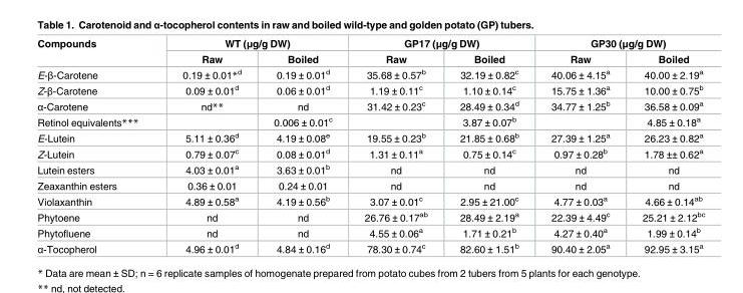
<table><thead><tr><td rowspan="2">Compounds</td><td colspan="2">WT (μg/g DW)</td><td colspan="2">GP17 (μg/g DW)</td><td colspan="2">GP30 (μg/g DW)</td></tr><tr><td>Raw</td><td>Boiled</td><td>Raw</td><td>Boiled</td><td>Raw</td><td>Boiled</td></tr></thead><tbody><tr><td>E-β-Carotene</td><td>0.19 ± 0.01*<sup>d</sup></td><td>0.19 ± 0.01<sup>d</sup></td><td>35.68 ± 0.57<sup>b</sup></td><td>32.19 ± 0.82<sup>c</sup></td><td>40.06 ± 4.15<sup>a</sup></td><td>40.00 ± 2.19<sup>a</sup></td></tr><tr><td>Z-β-Carotene</td><td>0.09 ± 0.01<sup>d</sup></td><td>0.06 ± 0.01<sup>d</sup></td><td>1.19 ± 0.11<sup>c</sup></td><td>1.10 ± 0.14<sup>c</sup></td><td>15.75 ± 1.36<sup>a</sup></td><td>10.00 ± 0.75<sup>b</sup></td></tr><tr><td>α-Carotene</td><td>nd**</td><td>nd</td><td>31.42 ± 0.23<sup>c</sup></td><td>28.49 ± 0.34<sup>d</sup></td><td>34.77 ± 1.25<sup>b</sup></td><td>36.58 ± 0.09<sup>a</sup></td></tr><tr><td>Retinol equivalents***</td><td></td><td>0.006 ± 0.01<sup>c</sup></td><td></td><td>3.87 ± 0.07<sup>b</sup></td><td></td><td>4.85 ± 0.18<sup>a</sup></td></tr><tr><td>E-Lutein</td><td>5.11 ± 0.36<sup>d</sup></td><td>4.19 ± 0.08<sup>e</sup></td><td>19.55 ± 0.23<sup>b</sup></td><td>21.85 ± 0.68<sup>b</sup></td><td>27.39 ± 1.25<sup>a</sup></td><td>26.23 ± 0.82<sup>a</sup></td></tr><tr><td>Z-Lutein</td><td>0.79 ± 0.07<sup>c</sup></td><td>0.08 ± 0.01<sup>d</sup></td><td>1.31 ± 0.11<sup>a</sup></td><td>0.75 ± 0.14<sup>c</sup></td><td>0.97 ± 0.28<sup>b</sup></td><td>1.78 ±± 0.62<sup>a</sup></td></tr><tr><td>Lutein esters</td><td>4.03 ± 0.01<sup>a</sup></td><td>3.63 ± 0.01<sup>b</sup></td><td>nd</td><td>nd</td><td>nd</td><td>nd</td></tr><tr><td>Zeaxanthin esters</td><td>0.36 ± 0.01</td><td>0.24 ± 0.01</td><td>nd</td><td>nd</td><td>nd</td><td>nd</td></tr><tr><td>Violaxanthin</td><td>4.89 ± 0.58<sup>a</sup></td><td>4.19 ± 0.56<sup>b</sup></td><td>3.07 ± 0.01<sup>c</sup></td><td>2.95 ± 21.00<sup>c</sup></td><td>4.77 ± 0.03<sup>a</sup></td><td>4.66 ± 0.14<sup>ab</sup></td></tr><tr><td>Phytoene</td><td>nd</td><td>nd</td><td>26.76 ± 0.17<sup>ab</sup></td><td>28.49 ± 2.19<sup>a</sup></td><td>22.39 ± 4.49<sup>c</sup></td><td>25.21 ± 2.12<sup>bc</sup></td></tr><tr><td>Phytofluene</td><td>nd</td><td>nd</td><td>4.55 ± 0.06<sup>a</sup></td><td>1.71 ± 0.21<sup>b</sup></td><td>4.27 ± 0.40<sup>a</sup></td><td>1.99 ± 0.14<sup>b</sup></td></tr><tr><td>α-Tocopherol</td><td>4.96 ± 0.01<sup>d</sup></td><td>4.84 ± 0.16<sup>d</sup></td><td>78.30 ± 0.74<sup>c</sup></td><td>82.60 ± 1.51<sup>b</sup></td><td>90.40 ± 2.05<sup>a</sup></td><td>92.95 ± 3.15<sup>a</sup></td></tr></tbody></table>